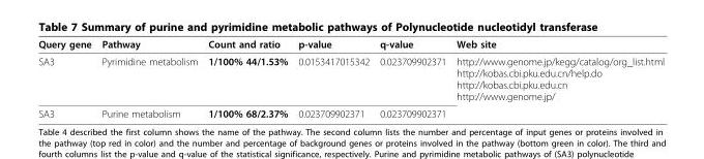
<table><thead><tr><td>Query gene</td><td>Pathway</td><td>Count and ratio</td><td>p-value</td><td>q-value</td><td>Web site</td></tr></thead><tbody><tr><td>SA3</td><td>Pyrimidine metabolism</td><td>1/100% 44/1.53%</td><td>0.0153417015342</td><td>0.023709902371</td><td>http://www.genome.jp/kegg/catalog/org_list.html http://kobas.cbi.pku.edu.cn/help.do http://kobas.cbi.pku.edu.cn http://www.genome.jp/</td></tr><tr><td>SA3</td><td>Purine metabolism</td><td>1/100% 68/2.37%</td><td>0.023709902371</td><td>0.023709902371</td><td></td></tr></tbody></table>